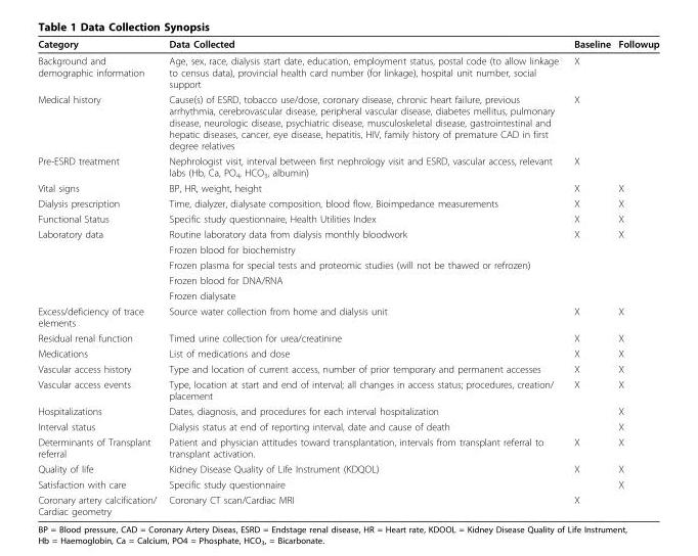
<table><thead><tr><td>Category</td><td>Data Collected</td><td>Baseline</td><td>Followup</td></tr></thead><tbody><tr><td>Background and demographic information</td><td>Age, sex, race, dialysis start date, education, employment status, postal code (to allow linkage to census data), provincial health card number (for linkage), hospital unit number, social support</td><td>X</td><td></td></tr><tr><td>Medical history</td><td>Cause(s) of ESRD, tobacco use/dose, coronary disease, chronic heart failure, previous arrhythmia, cerebrovascular disease, peripheral vascular disease, diabetes mellitus, pulmonary disease, neurologic disease, psychiatric disease, musculoskeletal disease, gastrointestinal and hepatic diseases, cancer, eye disease, hepatitis, HIV, family history of premature CAD in first degree relatives</td><td>X</td><td></td></tr><tr><td>Pre-ESRD treatment</td><td>Nephrologist visit, interval between first nephrology visit and ESRD, vascular access, relevant labs (Hb, Ca, PO<sub>4</sub>, HCO<sub>3</sub>, albumin)</td><td>X</td><td></td></tr><tr><td>Vital signs</td><td>BP, HR, weight, height</td><td>X</td><td>X</td></tr><tr><td>Dialysis prescription</td><td>Time, dialyzer, dialysate composition, blood flow, Bioimpedance measurements</td><td>X</td><td>X</td></tr><tr><td>Functional Status</td><td>Specific study questionnaire, Health Utilities Index</td><td>X</td><td>X</td></tr><tr><td rowspan="5">Laboratory data</td><td>Routine laboratory data from dialysis monthly bloodwork</td><td>X</td><td>X</td></tr><tr><td>Frozen blood for biochemistry</td><td></td><td></td></tr><tr><td>Frozen plasma for special tests and proteomic studies (will not be thawed or refrozen)</td><td></td><td></td></tr><tr><td>Frozen blood for DNA/RNA</td><td></td><td></td></tr><tr><td>Frozen dialysate</td><td></td><td></td></tr><tr><td>Excess/deficiency of trace elements</td><td>Source water collection from home and dialysis unit</td><td>X</td><td>X</td></tr><tr><td>Residual renal function</td><td>Timed urine collection for urea/creatinine</td><td>X</td><td>X</td></tr><tr><td>Medications</td><td>List of medications and dose</td><td>X</td><td>X</td></tr><tr><td>Vascular access history</td><td>Type and location of current access, number of prior temporary and permanent accesses</td><td>X</td><td>X</td></tr><tr><td>Vascular access events</td><td>Type, location at start and end of interval; all changes in access status; procedures, creation/ placement</td><td>X</td><td>X</td></tr><tr><td>Hospitalizations</td><td>Dates, diagnosis, and procedures for each interval hospitalization</td><td></td><td>X</td></tr><tr><td>Interval status</td><td>Dialysis status at end of reporting interval, date and cause of death</td><td></td><td>X</td></tr><tr><td>Determinants of Transplant referral</td><td>Patient and physician attitudes toward transplantation, intervals from transplant referral to transplant activation.</td><td>X</td><td>X</td></tr><tr><td>Quality of life</td><td>Kidney Disease Quality of Life Instrument (KDQOL)</td><td>X</td><td>X</td></tr><tr><td>Satisfaction with care</td><td>Specific study questionnaire</td><td></td><td>X</td></tr><tr><td>Coronary artery calcification/ Cardiac geometry</td><td>Coronary CT scan/Cardiac MRI</td><td>X</td><td></td></tr></tbody></table>